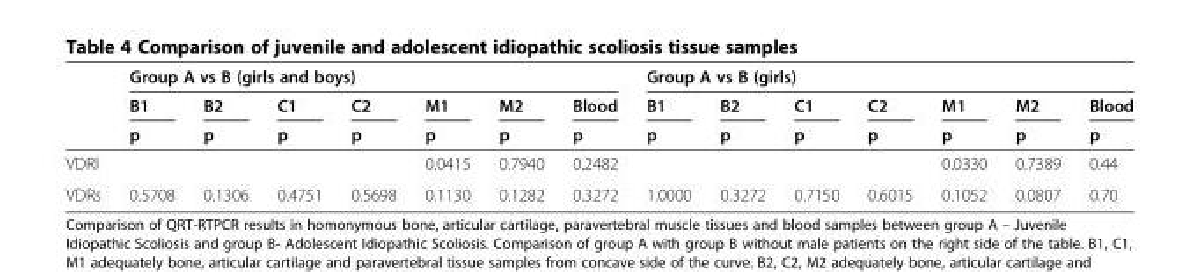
<table><thead><tr><td rowspan="3"></td><td colspan="7">Group A vs B (girls and boys)</td><td colspan="7">Group A vs B (girls)</td></tr><tr><td rowspan="2">B1 p</td><td rowspan="2">B2 p</td><td rowspan="2">C1 p</td><td rowspan="2">C2 p</td><td rowspan="2">M1 p</td><td rowspan="2">M2 p</td><td rowspan="2">Blood p</td><td rowspan="2">B1 p</td><td rowspan="2">B2 p</td><td rowspan="2">C1 p</td><td rowspan="2">C2 p</td><td rowspan="2">M1 p</td><td rowspan="2">M2 p</td><td rowspan="2">Blood p</td></tr><tr></tr></thead><tbody><tr><td>VDRl</td><td></td><td></td><td></td><td></td><td>0.0415</td><td>0.7940</td><td>0.2482</td><td></td><td></td><td></td><td></td><td>0.0330</td><td>0.7389</td><td>0.44</td></tr><tr><td>VDRs</td><td>0.5708</td><td>0.1306</td><td>0.4751</td><td>0.5698</td><td>0.1130</td><td>0.1282</td><td>0.3272</td><td>1.0000</td><td>0.3272</td><td>0.7150</td><td>0.6015</td><td>0.1052</td><td>0.0807</td><td>0.70</td></tr></tbody></table>